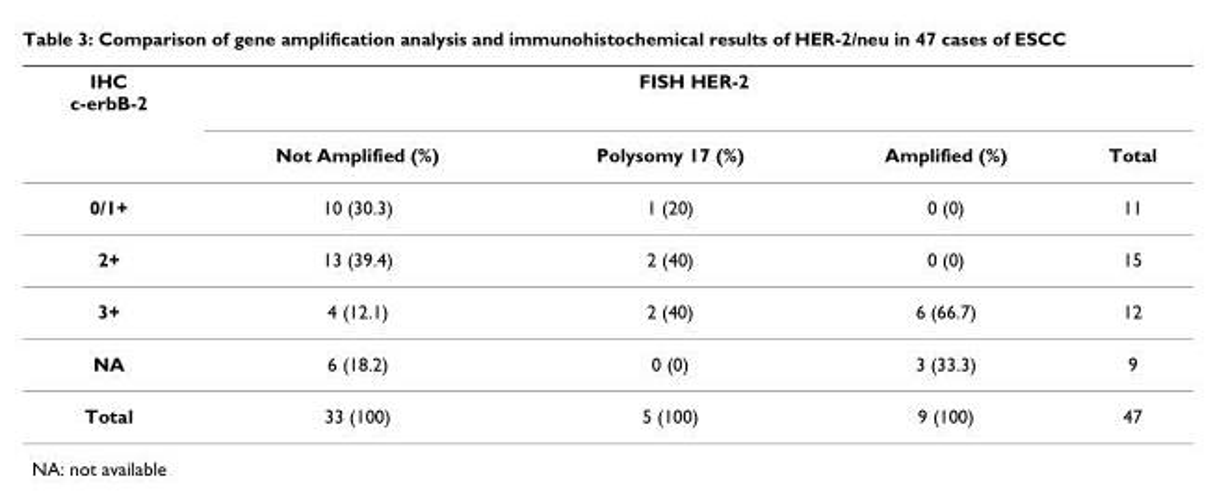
<table><thead><tr><td rowspan="2">IHC c-erbB-2</td><td colspan="4">FISH HER-2</td></tr><tr><td>Not Amplified (%)</td><td>Polysomy 17 (%)</td><td>Amplified (%)</td><td>Total</td></tr></thead><tbody><tr><td>0/1+</td><td>10 (30.3)</td><td>1 (20)</td><td>0 (0)</td><td>11</td></tr><tr><td>2+</td><td>13 (39.4)</td><td>2 (40)</td><td>0 (0)</td><td>15</td></tr><tr><td>3+</td><td>4 (12.1)</td><td>2 (40)</td><td>6 (66.7)</td><td>12</td></tr><tr><td>NA</td><td>6 (18.2)</td><td>0 (0)</td><td>3 (33.3)</td><td>9</td></tr><tr><td>Total</td><td>33 (100)</td><td>5 (100)</td><td>9 (100)</td><td>47</td></tr></tbody></table>